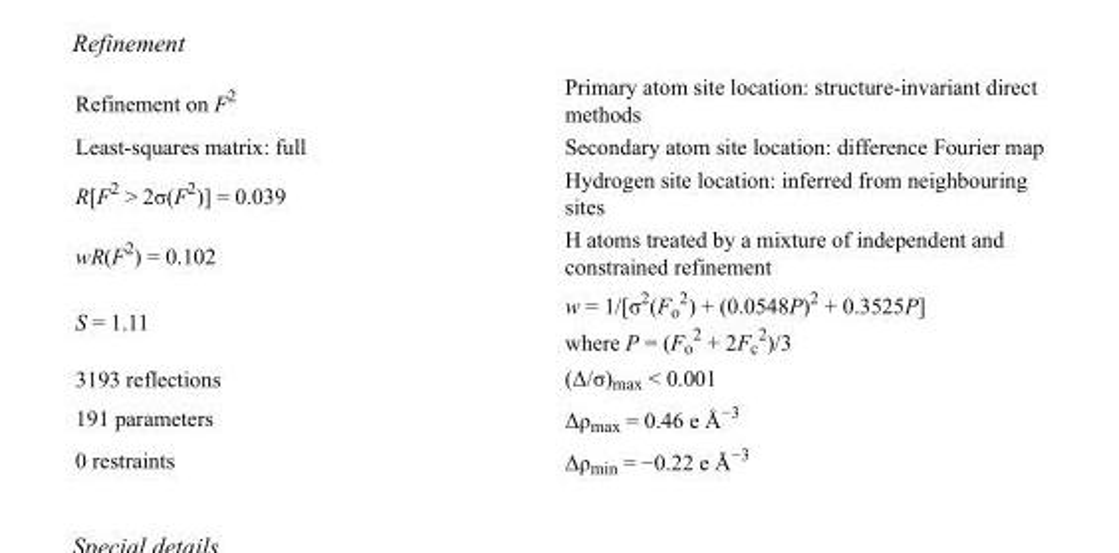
<table><tbody><tr><td>Refinement on F<sup>2</sup></td><td>Primary atom site location: structure-invariant direct methods</td></tr><tr><td>Least-squares matrix: full</td><td>Secondary atom site location: difference Fourier map</td></tr><tr><td>R[F<sup>2</sup> &gt; 2σ(F<sup>2</sup>)] = 0.039</td><td>Hydrogen site location: inferred from neighbouring sites</td></tr><tr><td>wR(F<sup>2</sup>) = 0.102</td><td>H atoms treated by a mixture of independent and constrained refinement</td></tr><tr><td>S = 1.11</td><td>w = 1/[σ<sup>2</sup>(F<sub>o</sub> <sup>2</sup>) + (0.0548P)<sup>2</sup> + 0.3525P] where P = (F<sub>o</sub> <sup>2</sup> + 2F<sub>c</sub> <sup>2</sup>)/3</td></tr><tr><td>3193 reflections</td><td>(Δ/σ)<sub>max</sub> &lt; 0.001</td></tr><tr><td>191 parameters</td><td>Δρ<sub>max</sub> = 0.46 e Å<sup>−3</sup></td></tr><tr><td>0 restraints</td><td>Δρ<sub>min</sub> = −0.22 e Å<sup>−3</sup></td></tr></tbody></table>